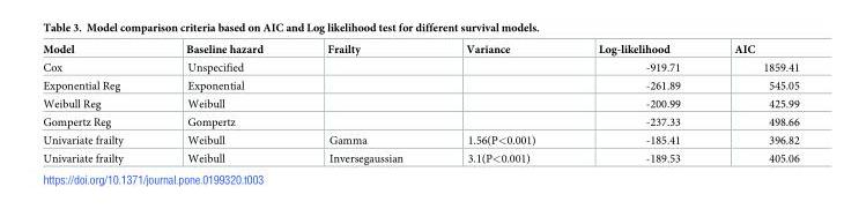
<table><thead><tr><td>Model</td><td>Baseline hazard</td><td>Frailty</td><td>Variance</td><td>Log-likelihood</td><td>AIC</td></tr></thead><tbody><tr><td>Cox</td><td>Unspecified</td><td></td><td></td><td>-919.71</td><td>1859.41</td></tr><tr><td>Exponential Reg</td><td>Exponential</td><td></td><td></td><td>-261.89</td><td>545.05</td></tr><tr><td>Weibull Reg</td><td>Weibull</td><td></td><td></td><td>-200.99</td><td>425.99</td></tr><tr><td>Gompertz Reg</td><td>Gompertz</td><td></td><td></td><td>-237.33</td><td>498.66</td></tr><tr><td>Univariate frailty</td><td>Weibull</td><td>Gamma</td><td>1.56(P&lt;0.001)</td><td>-185.41</td><td>396.82</td></tr><tr><td>Univariate frailty</td><td>Weibull</td><td>Inversegaussian</td><td>3.1(P&lt;0.001)</td><td>-189.53</td><td>405.06</td></tr></tbody></table>